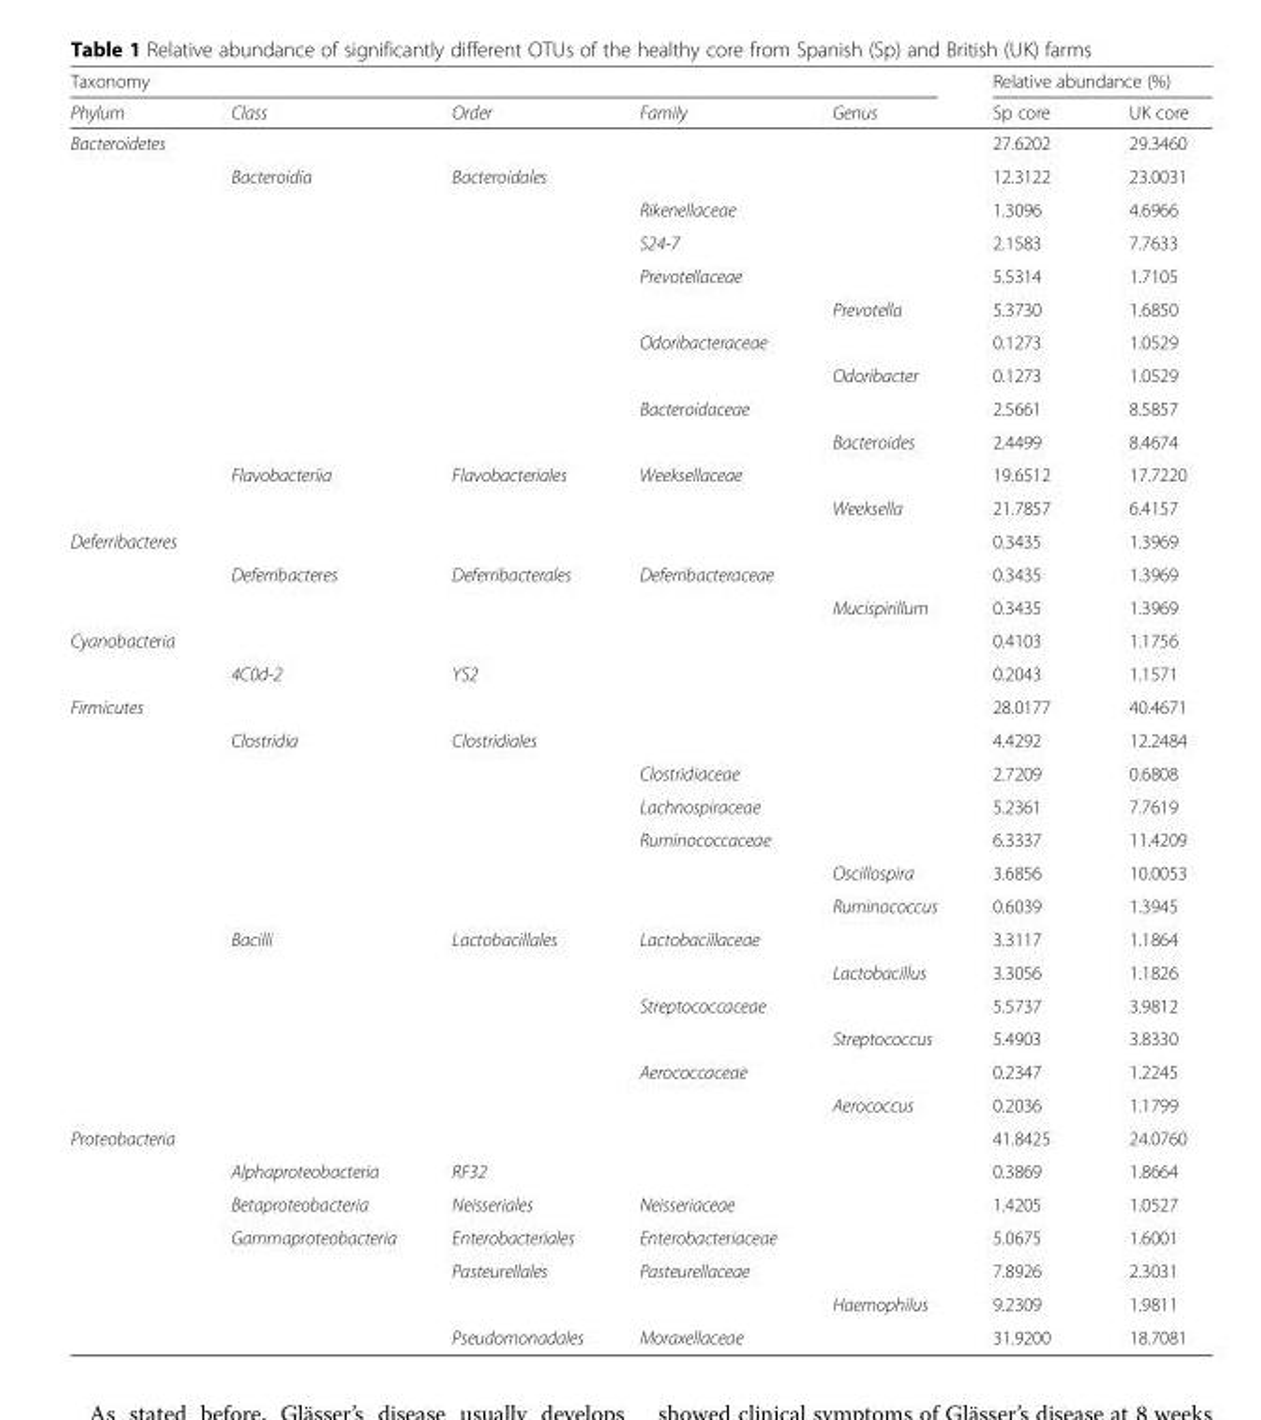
<table><thead><tr><td colspan="5">Taxonomy</td><td colspan="2">Relative abundance (%)</td></tr><tr><td>Phylum</td><td>Class</td><td>Order</td><td>Family</td><td>Genus</td><td>Sp core</td><td>UK core</td></tr></thead><tbody><tr><td rowspan="12">Bacteroidetes</td><td></td><td></td><td></td><td></td><td>27.6202</td><td>29.3460</td></tr><tr><td>Bacteroidia</td><td>Bacteroidales</td><td></td><td></td><td>12.3122</td><td>23.0031</td></tr><tr><td></td><td></td><td>Rikenellaceae</td><td></td><td>1.3096</td><td>4.6966</td></tr><tr><td></td><td></td><td>S24-7</td><td></td><td>2.1583</td><td>7.7633</td></tr><tr><td></td><td></td><td>Prevotellaceae</td><td></td><td>5.5314</td><td>1.7105</td></tr><tr><td></td><td></td><td></td><td>Prevotella</td><td>5.3730</td><td>1.6850</td></tr><tr><td></td><td></td><td>Odoribacteraceae</td><td></td><td>0.1273</td><td>1.0529</td></tr><tr><td></td><td></td><td></td><td>Odoribacter</td><td>0.1273</td><td>1.0529</td></tr><tr><td></td><td></td><td>Bacteroidaceae</td><td></td><td>2.5661</td><td>8.5857</td></tr><tr><td></td><td></td><td></td><td>Bacteroides</td><td>2.4499</td><td>8.4674</td></tr><tr><td>Flavobacteriia</td><td>Flavobacteriales</td><td>Weeksellaceae</td><td></td><td>19.6512</td><td>17.7220</td></tr><tr><td></td><td></td><td></td><td>Weeksella</td><td>21.7857</td><td>6.4157</td></tr><tr><td colspan="2">Deferribacteres</td><td></td><td></td><td></td><td>0.3435</td><td>1.3969</td></tr><tr><td></td><td>Deferribacteres</td><td>Deferribacterales</td><td>Deferribacteraceae</td><td></td><td>0.3435</td><td>1.3969</td></tr><tr><td></td><td></td><td></td><td></td><td>Mucispirillum</td><td>0.3435</td><td>1.3969</td></tr><tr><td rowspan="2">Cyanobacteria</td><td></td><td></td><td></td><td></td><td>0.4103</td><td>1.1756</td></tr><tr><td>4C0d-2</td><td>YS2</td><td></td><td></td><td>0.2043</td><td>1.1571</td></tr><tr><td rowspan="13">Firmicutes</td><td></td><td></td><td></td><td></td><td>28.0177</td><td>40.4671</td></tr><tr><td>Clostridia</td><td>Clostridiales</td><td></td><td></td><td>4.4292</td><td>12.2484</td></tr><tr><td></td><td></td><td>Clostridiaceae</td><td></td><td>2.7209</td><td>0.6808</td></tr><tr><td></td><td></td><td>Lachnospiraceae</td><td></td><td>5.2361</td><td>7.7619</td></tr><tr><td></td><td></td><td>Ruminococcaceae</td><td></td><td>6.3337</td><td>11.4209</td></tr><tr><td></td><td></td><td></td><td>Oscillospira</td><td>3.6856</td><td>10.0053</td></tr><tr><td></td><td></td><td></td><td>Ruminococcus</td><td>0.6039</td><td>1.3945</td></tr><tr><td>Bacilli</td><td>Lactobacillales</td><td>Lactobacillaceae</td><td></td><td>3.3117</td><td>1.1864</td></tr><tr><td></td><td></td><td></td><td>Lactobacillus</td><td>3.3056</td><td>1.1826</td></tr><tr><td></td><td></td><td>Streptococcaceae</td><td></td><td>5.5737</td><td>3.9812</td></tr><tr><td></td><td></td><td></td><td>Streptococcus</td><td>5.4903</td><td>3.8330</td></tr><tr><td></td><td></td><td>Aerococcaceae</td><td></td><td>0.2347</td><td>1.2245</td></tr><tr><td></td><td></td><td></td><td>Aerococcus</td><td>0.2036</td><td>1.1799</td></tr><tr><td rowspan="7">Proteobacteria</td><td></td><td></td><td></td><td></td><td>41.8425</td><td>24.0760</td></tr><tr><td>Alphaproteobacteria</td><td>RF32</td><td></td><td></td><td>0.3869</td><td>1.8664</td></tr><tr><td>Betaproteobacteria</td><td>Neisseriales</td><td>Neisseriaceae</td><td></td><td>1.4205</td><td>1.0527</td></tr><tr><td>Gammaproteobacteria</td><td>Enterobacteriales</td><td>Enterobacteriaceae</td><td></td><td>5.0675</td><td>1.6001</td></tr><tr><td></td><td>Pasteurellales</td><td>Pasteurellaceae</td><td></td><td>7.8926</td><td>2.3031</td></tr><tr><td></td><td></td><td></td><td>Haemophilus</td><td>9.2309</td><td>1.9811</td></tr><tr><td></td><td>Pseudomonadales</td><td>Moraxellaceae</td><td></td><td>31.9200</td><td>18.7081</td></tr></tbody></table>